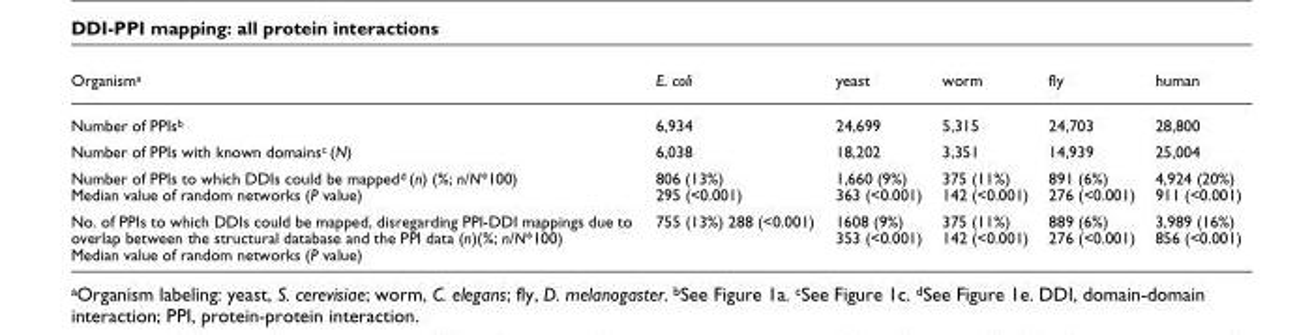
<table><thead><tr><td>Organisma</td><td>E. coli</td><td>yeast</td><td>worm</td><td>fly</td><td>human</td></tr></thead><tbody><tr><td>Number of PPIsb</td><td>6,934</td><td>24,699</td><td>5,315</td><td>24,703</td><td>28,800</td></tr><tr><td>Number of PPIs with known domainsc (N)</td><td>6,038</td><td>18,202</td><td>3,351</td><td>14,939</td><td>25,004</td></tr><tr><td>Number of PPIs to which DDIs could be mappedd (n) (%; n/N*100) Median value of random networks (P value)</td><td>806 (13%) 295 (&lt;0.001)</td><td>1,660 (9%) 363 (&lt;0.001)</td><td>375 (11%) 142 (&lt;0.001)</td><td>891 (6%) 276 (&lt;0.001)</td><td>4,924 (20%) 911 (&lt;0.001)</td></tr><tr><td>No. of PPIs to which DDIs could be mapped, disregarding PPI-DDI mappings due to overlap between the structural database and the PPI data (n)(%; n/N*100) Median value of random networks (P value)</td><td>755 (13%) 288 (&lt;0.001)</td><td>1608 (9%) 353 (&lt;0.001)</td><td>375 (11%) 142 (&lt;0.001)</td><td>889 (6%) 276 (&lt;0.001)</td><td>3,989 (16%) 856 (&lt;0.001)</td></tr></tbody></table>